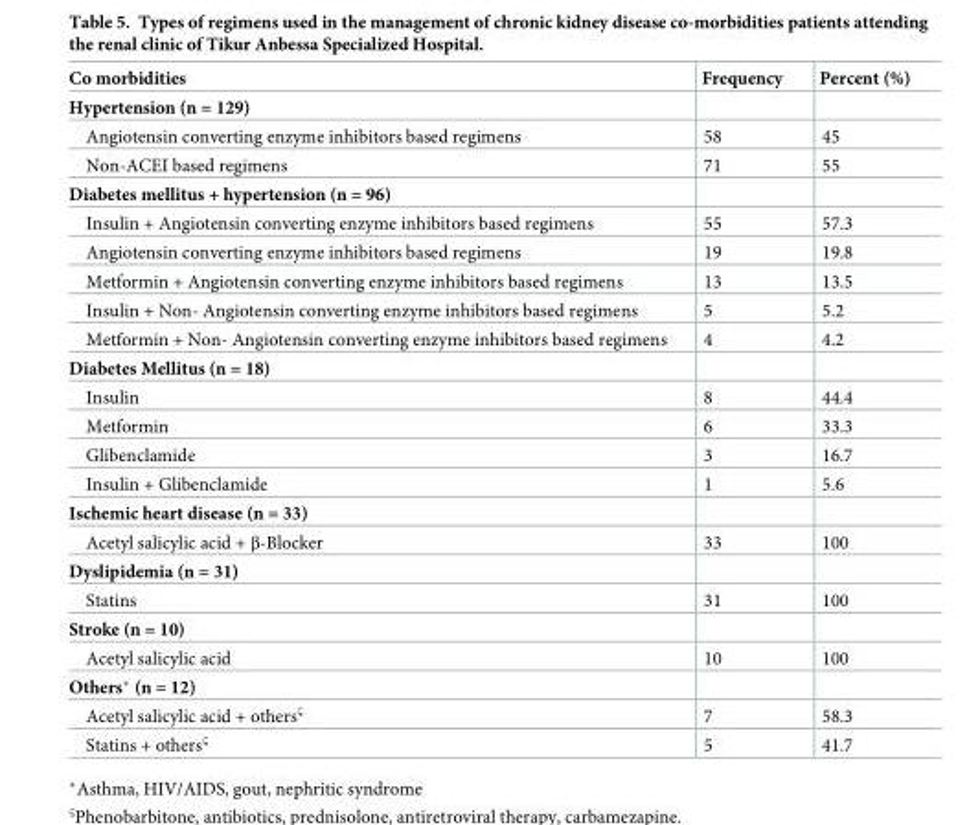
<table><thead><tr><td>Co morbidities</td><td>Frequency</td><td>Percent (%)</td></tr></thead><tbody><tr><td colspan="3">Hypertension (n = 129)</td></tr><tr><td>Angiotensin converting enzyme inhibitors based regimens</td><td>58</td><td>45</td></tr><tr><td>Non-ACEI based regimens</td><td>71</td><td>55</td></tr><tr><td colspan="3">Diabetes mellitus + hypertension (n = 96)</td></tr><tr><td>Insulin + Angiotensin converting enzyme inhibitors based regimens</td><td>55</td><td>57.3</td></tr><tr><td>Angiotensin converting enzyme inhibitors based regimens</td><td>19</td><td>19.8</td></tr><tr><td>Metformin + Angiotensin converting enzyme inhibitors based regimens</td><td>13</td><td>13.5</td></tr><tr><td>Insulin + Non- Angiotensin converting enzyme inhibitors based regimens</td><td>5</td><td>5.2</td></tr><tr><td>Metformin + Non- Angiotensin converting enzyme inhibitors based regimens</td><td>4</td><td>4.2</td></tr><tr><td colspan="3">Diabetes Mellitus (n = 18)</td></tr><tr><td>Insulin</td><td>8</td><td>44.4</td></tr><tr><td>Metformin</td><td>6</td><td>33.3</td></tr><tr><td>Glibenclamide</td><td>3</td><td>16.7</td></tr><tr><td>Insulin + Glibenclamide</td><td>1</td><td>5.6</td></tr><tr><td colspan="3">Ischemic heart disease (n = 33)</td></tr><tr><td>Acetyl salicylic acid + β-Blocker</td><td>33</td><td>100</td></tr><tr><td colspan="3">Dyslipidemia (n = 31)</td></tr><tr><td>Statins</td><td>31</td><td>100</td></tr><tr><td colspan="3">Stroke (n = 10)</td></tr><tr><td>Acetyl salicylic acid</td><td>10</td><td>100</td></tr><tr><td colspan="3">Others* (n = 12)</td></tr><tr><td>Acetyl salicylic acid + othersς</td><td>7</td><td>58.3</td></tr><tr><td>Statins + othersς</td><td>5</td><td>41.7</td></tr></tbody></table>